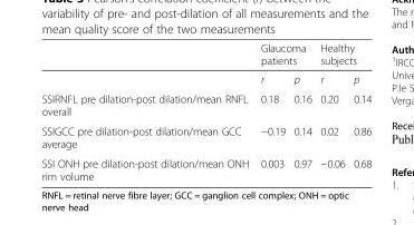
<table><thead><tr><td rowspan="2"></td><td colspan="2">Glaucoma patients</td><td colspan="2">Healthy subjects</td></tr><tr><td>r</td><td>p</td><td>r</td><td>p</td></tr></thead><tbody><tr><td>SSIRNFL pre dilation-post dilation/mean RNFL overall</td><td>0.18</td><td>0.16</td><td>0.20</td><td>0.14</td></tr><tr><td>SSIGCC pre dilation-post dilation/mean GCC average</td><td>−0.19</td><td>0.14</td><td>0.02</td><td>0.86</td></tr><tr><td>SSI ONH pre dilation-post dilation/mean ONH rim volume</td><td>0.003</td><td>0.97</td><td>−0.06</td><td>0.68</td></tr></tbody></table>